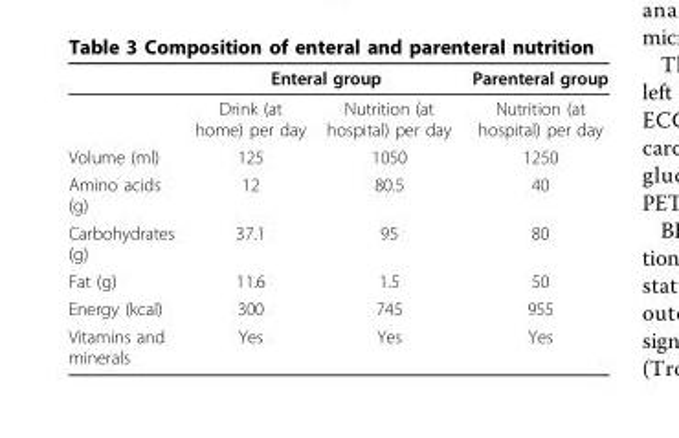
<table><thead><tr><td rowspan="2"></td><td colspan="2">Enteral group</td><td rowspan="2">Parenteral group Nutrition (at hospital) per day</td></tr><tr><td>Drink (at home) per day</td><td>Nutrition (at hospital) per day</td></tr></thead><tbody><tr><td>Volume (ml)</td><td>125</td><td>1050</td><td>1250</td></tr><tr><td>Amino acids (g)</td><td>12</td><td>80.5</td><td>40</td></tr><tr><td>Carbohydrates (g)</td><td>37.1</td><td>95</td><td>80</td></tr><tr><td>Fat (g)</td><td>11.6</td><td>1.5</td><td>50</td></tr><tr><td>Energy (kcal)</td><td>300</td><td>745</td><td>955</td></tr><tr><td>Vitamins and minerals</td><td>Yes</td><td>Yes</td><td>Yes</td></tr></tbody></table>